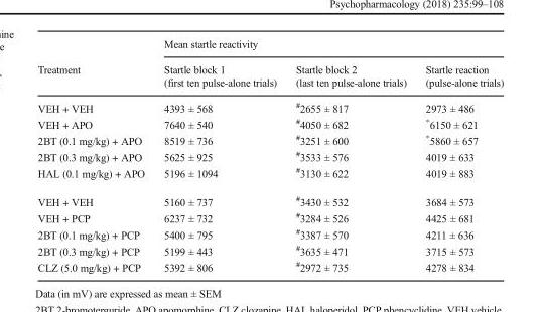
<table><thead><tr><td rowspan="2">Treatment</td><td colspan="3">Mean startle reactivity</td></tr><tr><td>Startle block 1 (first ten pulse-alone trials)</td><td>Startle block 2 (last ten pulse-alone trials)</td><td>Startle reaction (pulse-alone trials)</td></tr></thead><tbody><tr><td>VEH + VEH VEH + APO 2BT (0.1 mg/kg) + APO 2BT (0.3 mg/kg) + APO HAL (0.1 mg/kg) + APO</td><td>4393 ± 568 7640 ± 540 8519 ± 736 5625 ± 925 5196 ± 1094</td><td><sup>#</sup>2655 ± 817 <sup>#</sup>4050 ± 682 <sup>#</sup>3251 ± 600 <sup>#</sup>3533 ± 576 <sup>#</sup>3130 ± 622</td><td>2973 ± 486 *6150 ± 621 *5860 ± 657 4019 ± 633 4019 ± 883</td></tr><tr><td>VEH + VEH VEH + PCP 2BT (0.1 mg/kg) + PCP 2BT (0.3 mg/kg) + PCP CLZ (5.0 mg/kg) + PCP</td><td>5160 ± 737 6237 ± 732 5400 ± 795 5199 ± 443 5392 ± 806</td><td><sup>#</sup>3430 ± 532 <sup>#</sup>3284 ± 526 <sup>#</sup>3387 ± 570 <sup>#</sup>3635 ± 471 <sup>#</sup>2972 ± 735</td><td>3684 ± 573 4425 ± 681 4211 ± 636 3715 ± 573 4278 ± 834</td></tr></tbody></table>